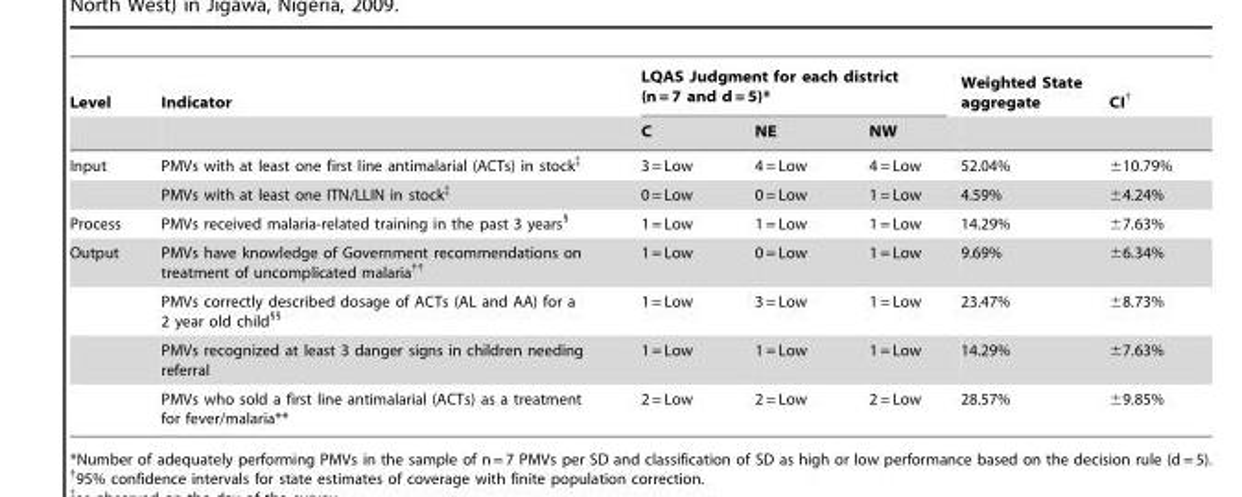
<table><thead><tr><td rowspan="2">Level</td><td rowspan="2">Indicator</td><td colspan="3">LQAS Judgment for each district (n = 7 and d = 5)*</td><td rowspan="2">Weighted State aggregate</td><td rowspan="2">CI†</td></tr><tr><td>C</td><td>NE</td><td>NW</td></tr></thead><tbody><tr><td rowspan="2">Input</td><td>PMVs with at least one first line antimalarial (ACTs) in stock‡</td><td>3 = Low</td><td>4 = Low</td><td>4 = Low</td><td>52.04%</td><td>±10.79%</td></tr><tr><td>PMVs with at least one ITN/LLIN in stock‡</td><td>0 = Low</td><td>0 = Low</td><td>1 = Low</td><td>4.59%</td><td>±4.24%</td></tr><tr><td>Process</td><td>PMVs received malaria-related training in the past 3 years§</td><td>1 = Low</td><td>1 = Low</td><td>1 = Low</td><td>14.29%</td><td>±7.63%</td></tr><tr><td rowspan="4">Output</td><td>PMVs have knowledge of Government recommendations on treatment of uncomplicated malaria††</td><td>1 = Low</td><td>0 = Low</td><td>1 = Low</td><td>9.69%</td><td>±6.34%</td></tr><tr><td>PMVs correctly described dosage of ACTs (AL and AA) for a 2 year old child§§</td><td>1 = Low</td><td>3 = Low</td><td>1 = Low</td><td>23.47%</td><td>±8.73%</td></tr><tr><td>PMVs recognized at least 3 danger signs in children needing referral</td><td>1 = Low</td><td>1 = Low</td><td>1 = Low</td><td>14.29%</td><td>±7.63%</td></tr><tr><td>PMVs who sold a first line antimalarial (ACTs) as a treatment for fever/malaria**</td><td>2 = Low</td><td>2 = Low</td><td>2 = Low</td><td>28.57%</td><td>±9.85%</td></tr></tbody></table>